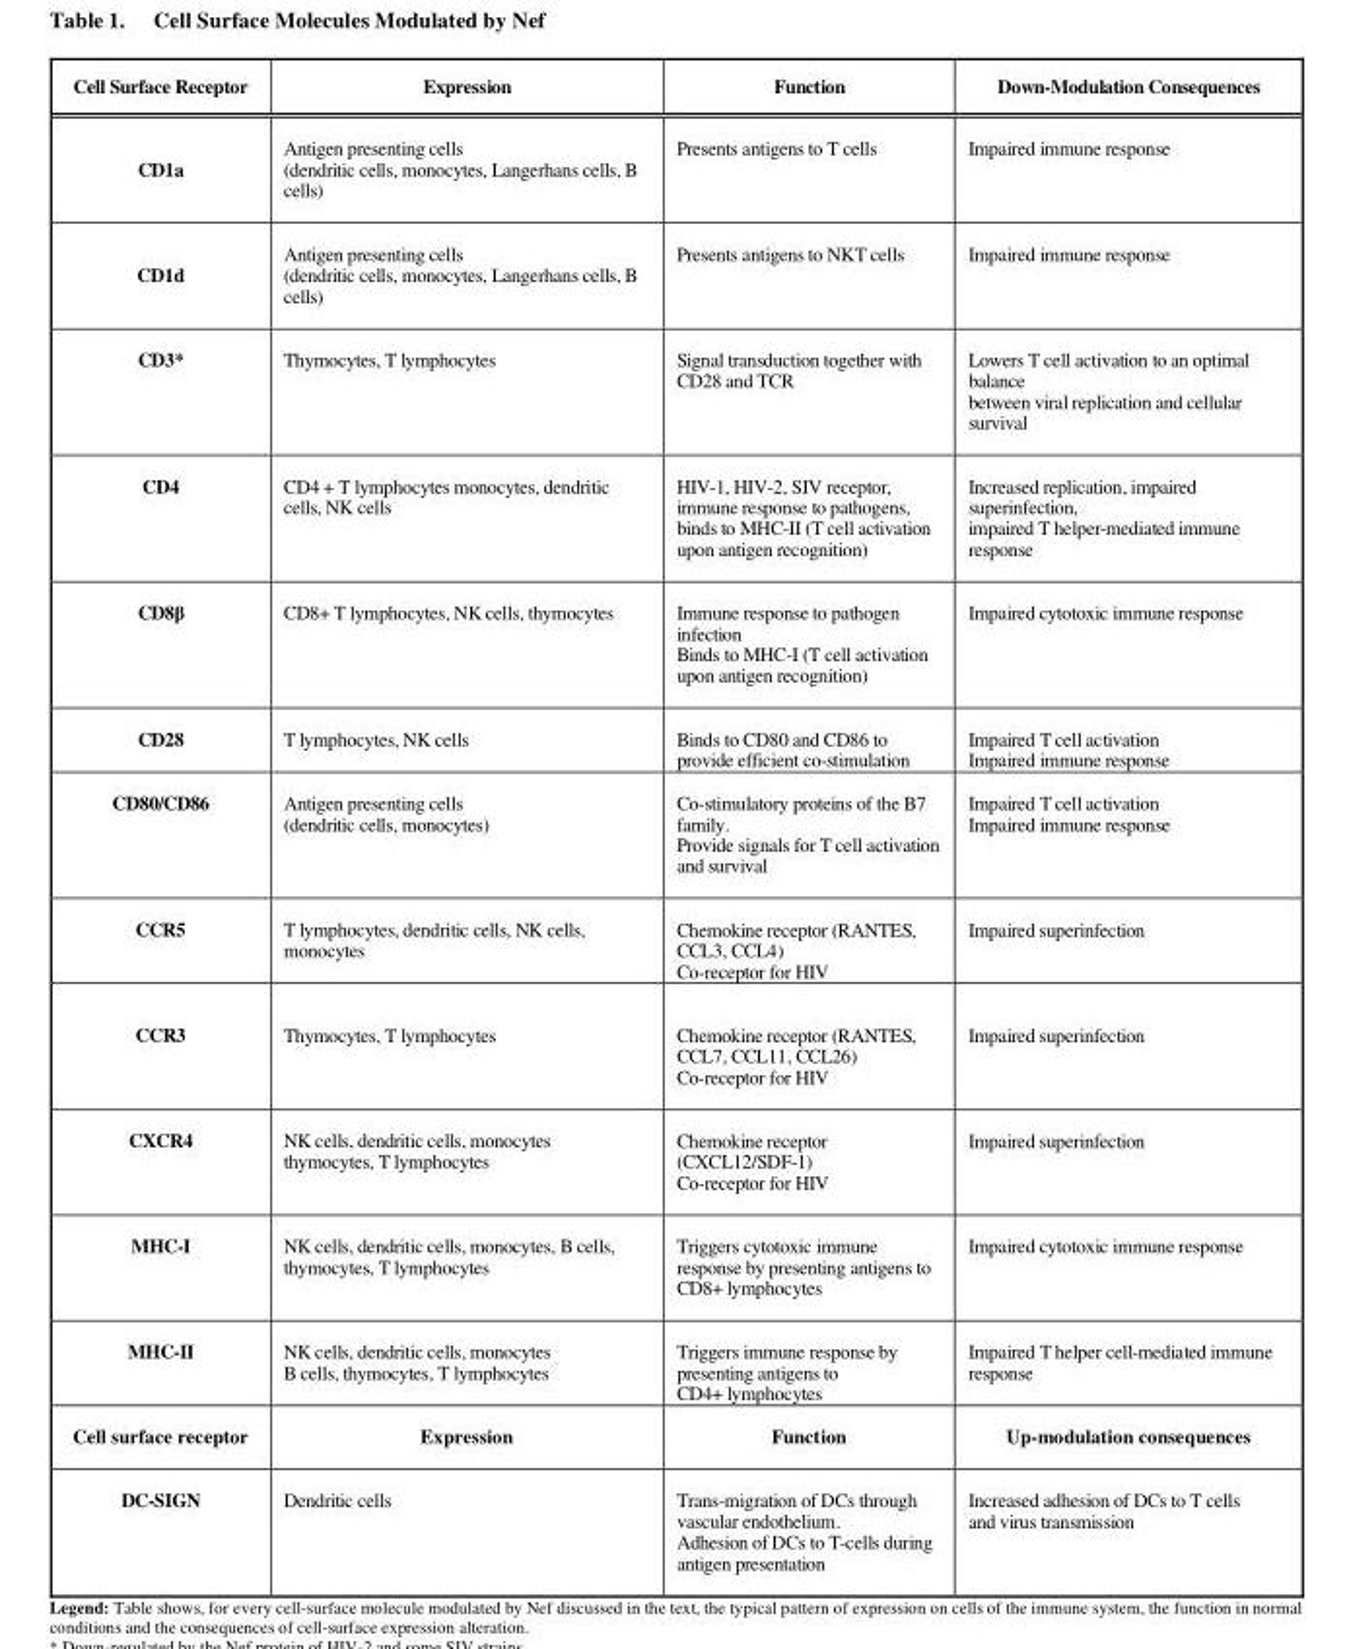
<table><thead><tr><td>Cell Surface Receptor</td><td>Expression</td><td>Function</td><td>Down-Modulation Consequences</td></tr></thead><tbody><tr><td>CD1a</td><td>Antigen presenting cells (dendritic cells, monocytes, Langerhans cells, B cells)</td><td>Presents antigens to T cells</td><td>Impaired immune response</td></tr><tr><td>CD1d</td><td>Antigen presenting cells (dendritic cells, monocytes, Langerhans cells, B cells)</td><td>Presents antigens to NKT cells</td><td>Impaired immune response</td></tr><tr><td>CD3*</td><td>Thymocytes, T lymphocytes</td><td>Signal transduction together with CD28 and TCR</td><td>Lowers T cell activation to an optimal balance between viral replication and cellular survival</td></tr><tr><td>CD4</td><td>CD4 + T lymphocytes monocytes, dendritic cells, NK cells</td><td>HIV-1, HIV-2, SIV receptor, immune response to pathogens, binds to MHC-II (T cell activation upon antigen recognition)</td><td>Increased replication, impaired superinfection, impaired T helper-mediated immune response</td></tr><tr><td>CD8β</td><td>CD8+ T lymphocytes, NK cells, thymocytes</td><td>Immune response to pathogen infection Binds to MHC-I (T cell activation upon antigen recognition)</td><td>Impaired cytotoxic immune response</td></tr><tr><td>CD28</td><td>T lymphocytes, NK cells</td><td>Binds to CD80 and CD86 to provide efficient co-stimulation</td><td>Impaired T cell activation Impaired immune response</td></tr><tr><td>CD80/CD86</td><td>Antigen presenting cells (dendritic cells, monocytes)</td><td>Co-stimulatory proteins of the B7 family. Provide signals for T cell activation and survival</td><td>Impaired T cell activation Impaired immune response</td></tr><tr><td>CCR5</td><td>T lymphocytes, dendritic cells, NK cells, monocytes</td><td>Chemokine receptor (RANTES, CCL3, CCL4) Co-receptor for HIV</td><td>Impaired superinfection</td></tr><tr><td>CCR3</td><td>Thymocytes, T lymphocytes</td><td>Chemokine receptor (RANTES, CCL7, CCL11, CCL26) Co-receptor for HIV</td><td>Impaired superinfection</td></tr><tr><td>CXCR4</td><td>NK cells, dendritic cells, monocytes thymocytes, T lymphocytes</td><td>Chemokine receptor (CXCL12/SDF-1) Co-receptor for HIV</td><td>Impaired superinfection</td></tr><tr><td>MHC-I</td><td>NK cells, dendritic cells, monocytes, B cells, thymocytes, T lymphocytes</td><td>Triggers cytotoxic immune response by presenting antigens to CD8+ lymphocytes</td><td>Impaired cytotoxic immune response</td></tr><tr><td>MHC-II</td><td>NK cells, dendritic cells, monocytes B cells, thymocytes, T lymphocytes</td><td>Triggers immune response by presenting antigens to CD4+ lymphocytes</td><td>Impaired T helper cell-mediated immune response</td></tr><tr><td>Cell surface receptor</td><td>Expression</td><td>Function</td><td>Up-modulation consequences</td></tr><tr><td>DC-SIGN</td><td>Dendritic cells</td><td>Trans-migration of DCs through vascular endothelium. Adhesion of DCs to T-cells during antigen presentation</td><td>Increased adhesion of DCs to T cells and virus transmission</td></tr></tbody></table>